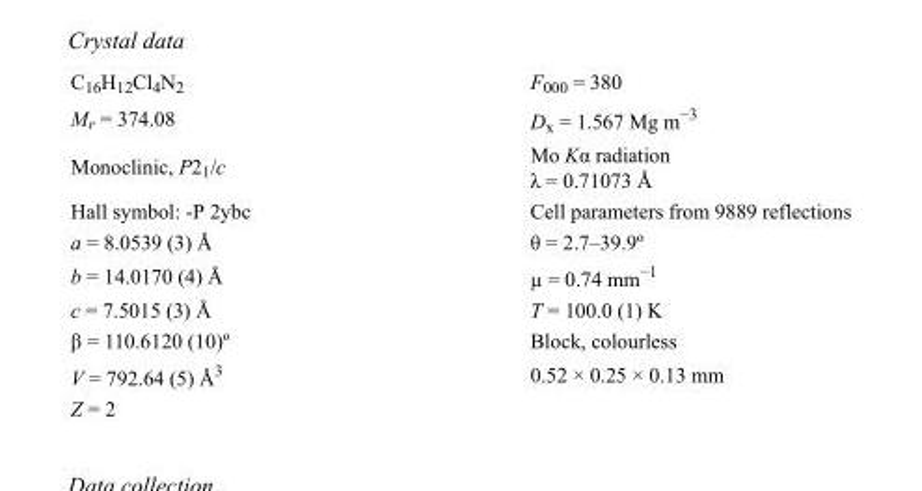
<table><tbody><tr><td>C<sub>16</sub>H<sub>12</sub>Cl<sub>4</sub>N<sub>2</sub></td><td>F000 = 380</td></tr><tr><td>M<sub>r</sub> = 374.08</td><td>D<sub>x</sub> = 1.567 Mg m<sup>−3</sup></td></tr><tr><td>Monoclinic, P2<sub>1</sub>/c</td><td>Mo Kα radiation λ = 0.71073 Å</td></tr><tr><td>Hall symbol: -P 2ybc</td><td>Cell parameters from 9889 reflections</td></tr><tr><td>a = 8.0539 (3) Å</td><td>θ = 2.7–39.9º</td></tr><tr><td>b = 14.0170 (4) Å</td><td>µ = 0.74 mm<sup>−1</sup></td></tr><tr><td>c = 7.5015 (3) Å</td><td>T = 100.0 (1) K</td></tr><tr><td>β = 110.6120 (10)º</td><td>Block, colourless</td></tr><tr><td>V = 792.64 (5) Å<sup>3</sup></td><td>0.52 × 0.25 × 0.13 mm</td></tr><tr><td>Z = 2</td><td></td></tr></tbody></table>